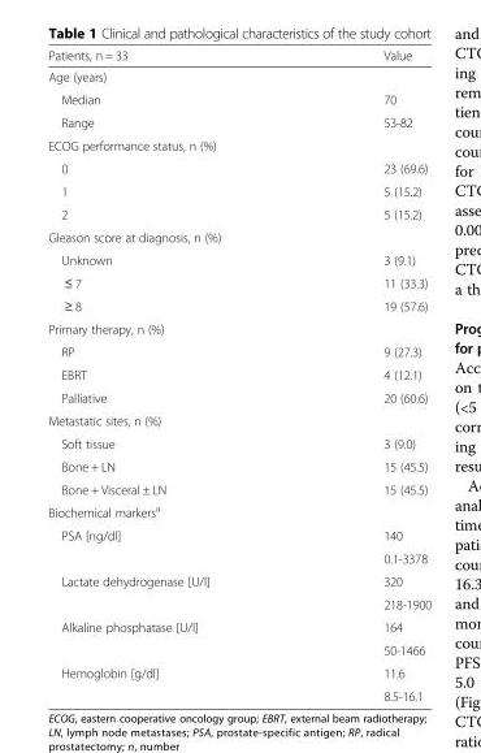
<table><thead><tr><td>Patients, n = 33</td><td>Value</td></tr></thead><tbody><tr><td colspan="2">Age (years)</td></tr><tr><td>Median</td><td>70</td></tr><tr><td>Range</td><td>53-82</td></tr><tr><td colspan="2">ECOG performance status, n (%)</td></tr><tr><td>0</td><td>23 (69.6)</td></tr><tr><td>1</td><td>5 (15.2)</td></tr><tr><td>2</td><td>5 (15.2)</td></tr><tr><td colspan="2">Gleason score at diagnosis, n (%)</td></tr><tr><td>Unknown</td><td>3 (9.1)</td></tr><tr><td>≤ 7</td><td>11 (33.3)</td></tr><tr><td>≥ 8</td><td>19 (57.6)</td></tr><tr><td colspan="2">Primary therapy, n (%)</td></tr><tr><td>RP</td><td>9 (27.3)</td></tr><tr><td>EBRT</td><td>4 (12.1)</td></tr><tr><td>Palliative</td><td>20 (60.6)</td></tr><tr><td colspan="2">Metastatic sites, n (%)</td></tr><tr><td>Soft tissue</td><td>3 (9.0)</td></tr><tr><td>Bone + LN</td><td>15 (45.5)</td></tr><tr><td>Bone + Visceral ± LN</td><td>15 (45.5)</td></tr><tr><td colspan="2">Biochemical markers<sup>a</sup></td></tr><tr><td rowspan="2">PSA [ng/dl]</td><td>140</td></tr><tr><td>0.1-3378</td></tr><tr><td rowspan="2">Lactate dehydrogenase [U/l]</td><td>320</td></tr><tr><td>218-1900</td></tr><tr><td rowspan="2">Alkaline phosphatase [U/l]</td><td>164</td></tr><tr><td>50-1466</td></tr><tr><td rowspan="2">Hemoglobin [g/dl]</td><td>11.6</td></tr><tr><td>8.5-16.1</td></tr></tbody></table>